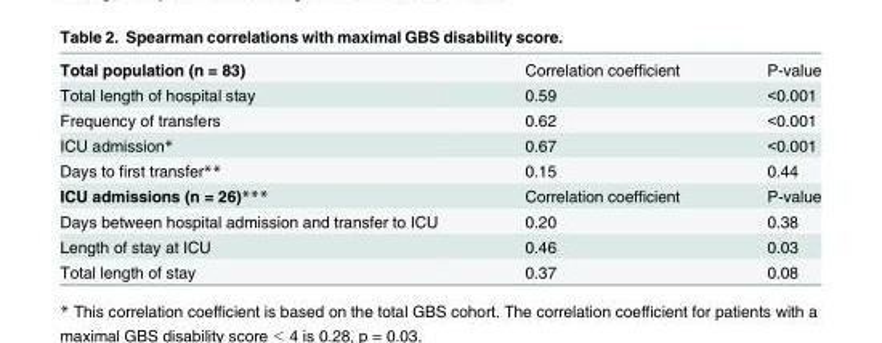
<table><tbody><tr><td>Total population (n = 83)</td><td>Correlation coefficient</td><td>P-value</td></tr><tr><td>Total length of hospital stay</td><td>0.59</td><td>&lt;0.001</td></tr><tr><td>Frequency of transfers</td><td>0.62</td><td>&lt;0.001</td></tr><tr><td>ICU admission*</td><td>0.67</td><td>&lt;0.001</td></tr><tr><td>Days to first transfer**</td><td>0.15</td><td>0.44</td></tr><tr><td>ICU admissions (n = 26)***</td><td>Correlation coefficient</td><td>P-value</td></tr><tr><td>Days between hospital admission and transfer to ICU</td><td>0.20</td><td>0.38</td></tr><tr><td>Length of stay at ICU</td><td>0.46</td><td>0.03</td></tr><tr><td>Total length of stay</td><td>0.37</td><td>0.08</td></tr></tbody></table>